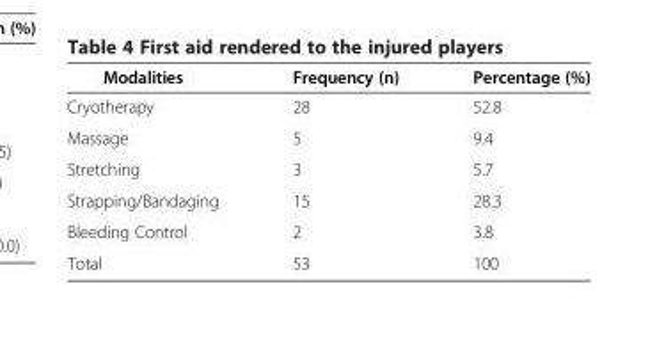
<table><thead><tr><td>Modalities</td><td>Frequency (n)</td><td>Percentage (%)</td></tr></thead><tbody><tr><td>Cryotherapy</td><td>28</td><td>52.8</td></tr><tr><td>Massage</td><td>5</td><td>9.4</td></tr><tr><td>Stretching</td><td>3</td><td>5.7</td></tr><tr><td>Strapping/Bandaging</td><td>15</td><td>28.3</td></tr><tr><td>Bleeding Control</td><td>2</td><td>3.8</td></tr><tr><td>Total</td><td>53</td><td>100</td></tr></tbody></table>